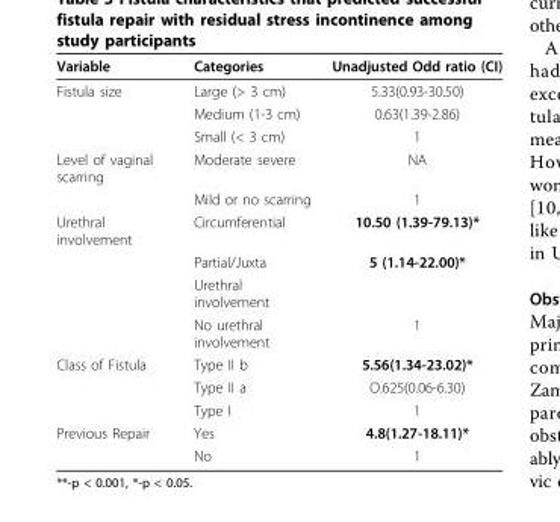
<table><thead><tr><td>Variable</td><td>Categories</td><td>Unadjusted Odd ratio (CI)</td></tr></thead><tbody><tr><td rowspan="3">Fistula size</td><td>Large (&gt; 3 cm)</td><td>5.33(0.93-30.50)</td></tr><tr><td>Medium (1-3 cm)</td><td>0.63(1.39-2.86)</td></tr><tr><td>Small (&lt; 3 cm)</td><td>1</td></tr><tr><td rowspan="2">Level of vaginal scarring</td><td>Moderate severe</td><td>NA</td></tr><tr><td>Mild or no scarring</td><td>1</td></tr><tr><td rowspan="4">Urethral involvement</td><td>Circumferential</td><td>10.50 (1.39-79.13)*</td></tr><tr><td>Partial/Juxta</td><td>5 (1.14-22.00)*</td></tr><tr><td>Urethral involvement</td><td></td></tr><tr><td>No urethral involvement</td><td>1</td></tr><tr><td rowspan="3">Class of Fistula</td><td>Type II b</td><td>5.56(1.34-23.02)*</td></tr><tr><td>Type II a</td><td>O.625(0.06-6.30)</td></tr><tr><td>Type I</td><td>1</td></tr><tr><td rowspan="2">Previous Repair</td><td>Yes</td><td>4.8(1.27-18.11)*</td></tr><tr><td>No</td><td>1</td></tr></tbody></table>